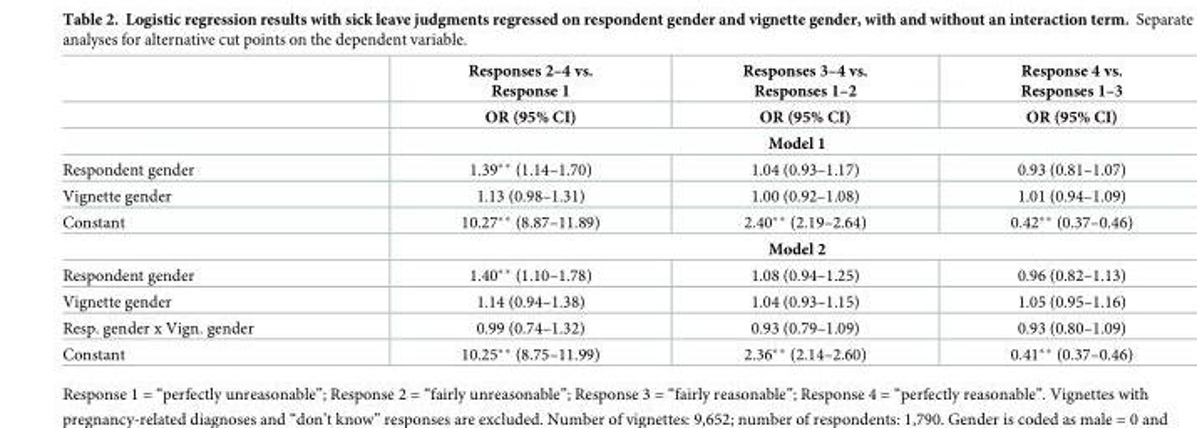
<table><thead><tr><td rowspan="2"></td><td rowspan="2">Responses 2–4 vs. Response 1 OR (95% CI)</td><td rowspan="2">Responses 3–4 vs. Responses 1–2 OR (95% CI)</td><td rowspan="2">Response 4 vs. Responses 1–3 OR (95% CI)</td></tr><tr></tr></thead><tbody><tr><td></td><td colspan="3">Model 1</td></tr><tr><td>Respondent gender</td><td>1.39** (1.14–1.70)</td><td>1.04 (0.93–1.17)</td><td>0.93 (0.81–1.07)</td></tr><tr><td>Vignette gender</td><td>1.13 (0.98–1.31)</td><td>1.00 (0.92–1.08)</td><td>1.01 (0.94–1.09)</td></tr><tr><td rowspan="2">Constant</td><td>10.27** (8.87–11.89)</td><td>2.40** (2.19–2.64)</td><td>0.42** (0.37–0.46)</td></tr><tr><td colspan="3">Model 2</td></tr><tr><td>Respondent gender</td><td>1.40** (1.10–1.78)</td><td>1.08 (0.94–1.25)</td><td>0.96 (0.82–1.13)</td></tr><tr><td>Vignette gender</td><td>1.14 (0.94–1.38)</td><td>1.04 (0.93–1.15)</td><td>1.05 (0.95–1.16)</td></tr><tr><td>Resp. gender x Vign. gender</td><td>0.99 (0.74–1.32)</td><td>0.93 (0.79–1.09)</td><td>0.93 (0.80–1.09)</td></tr><tr><td>Constant</td><td>10.25** (8.75–11.99)</td><td>2.36** (2.14–2.60)</td><td>0.41** (0.37–0.46)</td></tr></tbody></table>